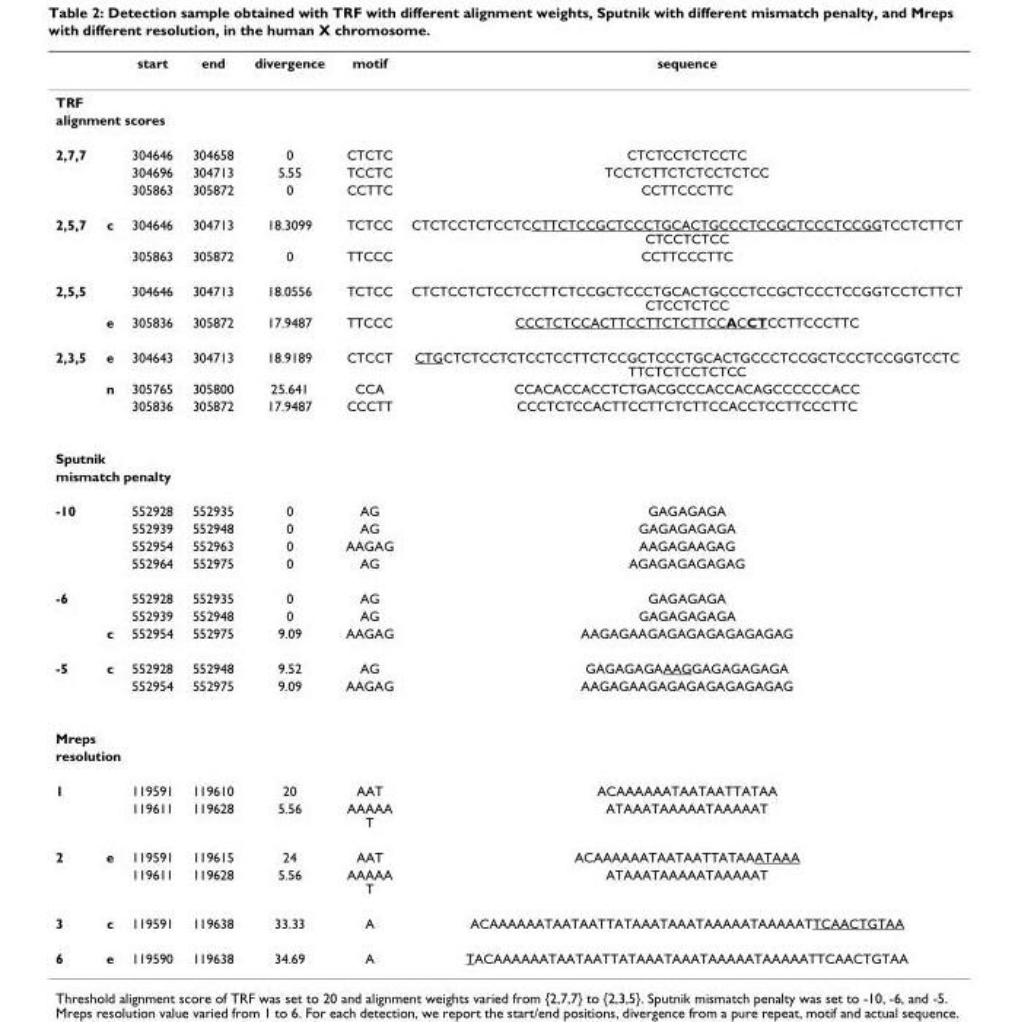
<table><thead><tr><td></td><td></td><td>start</td><td>end</td><td>divergence</td><td>motif</td><td>sequence</td></tr></thead><tbody><tr><td colspan="7">TRF</td></tr><tr><td colspan="7">alignment scores</td></tr><tr><td rowspan="3">2,7,7</td><td></td><td>304646</td><td>304658</td><td>0</td><td>CTCTC</td><td>CTCTCCTCTCCTC</td></tr><tr><td></td><td>304696</td><td>304713</td><td>5.55</td><td>TCCTC</td><td>TCCTCTTCTCTCCTCTCC</td></tr><tr><td></td><td>305863</td><td>305872</td><td>0</td><td>CCTTC</td><td>CCTTCCCTTC</td></tr><tr><td rowspan="2">2,5,7</td><td>c</td><td>304646</td><td>304713</td><td>18.3099</td><td>TCTCC</td><td>CTCTCCTCTCCTCCTTCTCCGCTCCCTGCACTGCCCTCCGCTCCCTCCGGTCCTCTTCT CTCCTCTCC</td></tr><tr><td></td><td>305863</td><td>305872</td><td>0</td><td>TTCCC</td><td>CCTTCCCTTC</td></tr><tr><td rowspan="2">2,5,5</td><td></td><td>304646</td><td>304713</td><td>18.0556</td><td>TCTCC</td><td>CTCTCCTCTCCTCCTTCTCCGCTCCCTGCACTGCCCTCCGCTCCCTCCGGTCCTCTTCT CTCCTCTCC</td></tr><tr><td>e</td><td>305836</td><td>305872</td><td>17.9487</td><td>TTCCC</td><td>CCCTCTCCACTTCCTTCTCTTCCACCTCCTTCCCTTC</td></tr><tr><td rowspan="3">2,3,5</td><td>e</td><td>304643</td><td>304713</td><td>18.9189</td><td>CTCCT</td><td>CTGCTCTCCTCTCCTCCTTCTCCGCTCCCTGCACTGCCCTCCGCTCCCTCCGGTCCTC TTCTCTCCTCTCC</td></tr><tr><td>n</td><td>305765</td><td>305800</td><td>25.641</td><td>CCA</td><td>CCACACCACCTCTGACGCCCACCACAGCCCCCCACC</td></tr><tr><td></td><td>305836</td><td>305872</td><td>17.9487</td><td>CCCTT</td><td>CCCTCTCCACTTCCTTCTCTTCCACCTCCTTCCCTTC</td></tr><tr><td colspan="7">Sputnik</td></tr><tr><td colspan="7">mismatch penalty</td></tr><tr><td rowspan="4">-10</td><td></td><td>552928</td><td>552935</td><td>0</td><td>AG</td><td>GAGAGAGA</td></tr><tr><td></td><td>552939</td><td>552948</td><td>0</td><td>AG</td><td>GAGAGAGAGA</td></tr><tr><td></td><td>552954</td><td>552963</td><td>0</td><td>AAGAG</td><td>AAGAGAAGAG</td></tr><tr><td></td><td>552964</td><td>552975</td><td>0</td><td>AG</td><td>AGAGAGAGAGAG</td></tr><tr><td rowspan="3">-6</td><td></td><td>552928</td><td>552935</td><td>0</td><td>AG</td><td>GAGAGAGA</td></tr><tr><td></td><td>552939</td><td>552948</td><td>0</td><td>AG</td><td>GAGAGAGAGA</td></tr><tr><td>c</td><td>552954</td><td>552975</td><td>9.09</td><td>AAGAG</td><td>AAGAGAAGAGAGAGAGAGAGAG</td></tr><tr><td rowspan="2">-5</td><td>c</td><td>552928</td><td>552948</td><td>9.52</td><td>AG</td><td>GAGAGAGAAAGGAGAGAGAGA</td></tr><tr><td></td><td>552954</td><td>552975</td><td>9.09</td><td>AAGAG</td><td>AAGAGAAGAGAGAGAGAGAGAG</td></tr><tr><td colspan="7">Mreps</td></tr><tr><td colspan="7">resolution</td></tr><tr><td rowspan="2">1</td><td></td><td>119591</td><td>119610</td><td>20</td><td>AAT</td><td>ACAAAAAATAATAATTATAA</td></tr><tr><td></td><td>119611</td><td>119628</td><td>5.56</td><td>AAAAA T</td><td>ATAAATAAAAATAAAAAT</td></tr><tr><td rowspan="2">2</td><td>e</td><td>119591</td><td>119615</td><td>24</td><td>AAT</td><td>ACAAAAAATAATAATTATAAATAAA</td></tr><tr><td></td><td>119611</td><td>119628</td><td>5.56</td><td>AAAAA T</td><td>ATAAATAAAAATAAAAAT</td></tr><tr><td>3</td><td>c</td><td>119591</td><td>119638</td><td>33.33</td><td>A</td><td>ACAAAAAATAATAATTATAAATAAATAAAAATAAAAATTCAACTGTAA</td></tr><tr><td>6</td><td>e</td><td>119590</td><td>119638</td><td>34.69</td><td>A</td><td>TACAAAAAATAATAATTATAAATAAATAAAAATAAAAATTCAACTGTAA</td></tr></tbody></table>